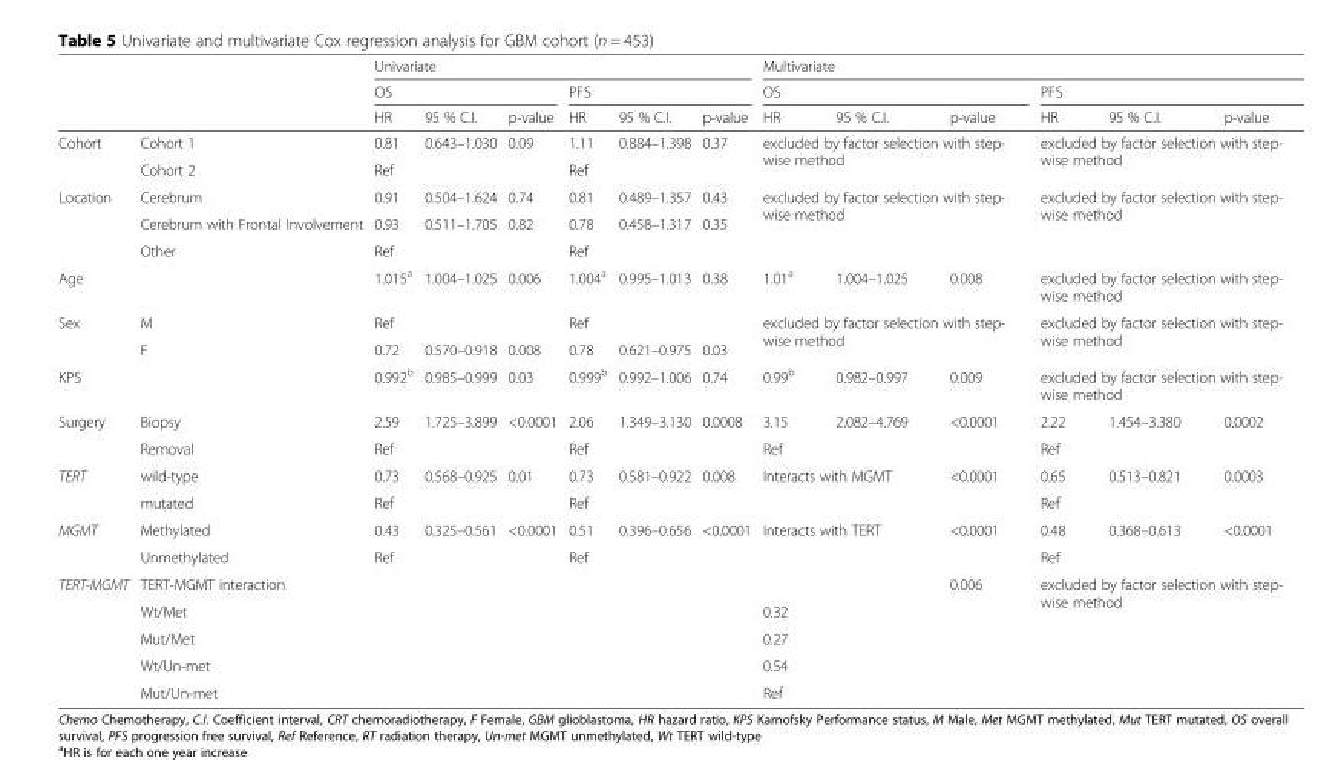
<table><thead><tr><td rowspan="3"></td><td rowspan="3"></td><td colspan="6">Univariate</td><td colspan="6">Multivariate</td></tr><tr><td colspan="3">OS</td><td colspan="3">PFS</td><td colspan="3">OS</td><td colspan="3">PFS</td></tr><tr><td>HR</td><td>95 % C.I.</td><td>p-value</td><td>HR</td><td>95 % C.I.</td><td>p-value</td><td>HR</td><td>95 % C.I.</td><td>p-value</td><td>HR</td><td>95 % C.I.</td><td>p-value</td></tr></thead><tbody><tr><td rowspan="2">Cohort</td><td>Cohort 1</td><td>0.81</td><td>0.643–1.030</td><td>0.09</td><td>1.11</td><td>0.884–1.398</td><td>0.37</td><td rowspan="2" colspan="3">excluded by factor selection with step- wise method</td><td rowspan="2" colspan="3">excluded by factor selection with step- wise method</td></tr><tr><td>Cohort 2</td><td colspan="3">Ref</td><td colspan="3">Ref</td></tr><tr><td rowspan="3">Location</td><td>Cerebrum</td><td>0.91</td><td>0.504–1.624</td><td>0.74</td><td>0.81</td><td>0.489–1.357</td><td>0.43</td><td rowspan="3" colspan="3">excluded by factor selection with step- wise method</td><td rowspan="3" colspan="3">excluded by factor selection with step- wise method</td></tr><tr><td>Cerebrum with Frontal Involvement</td><td>0.93</td><td>0.511–1.705</td><td>0.82</td><td>0.78</td><td>0.458–1.317</td><td>0.35</td></tr><tr><td>Other</td><td colspan="3">Ref</td><td colspan="3">Ref</td></tr><tr><td>Age</td><td></td><td>1.015<sup>a</sup></td><td>1.004–1.025</td><td>0.006</td><td>1.004<sup>a</sup></td><td>0.995–1.013</td><td>0.38</td><td>1.01<sup>a</sup></td><td>1.004–1.025</td><td>0.008</td><td colspan="3">excluded by factor selection with step- wise method</td></tr><tr><td rowspan="2">Sex</td><td>M</td><td colspan="3">Ref</td><td colspan="3">Ref</td><td rowspan="2" colspan="3">excluded by factor selection with step- wise method</td><td rowspan="2" colspan="3">excluded by factor selection with step- wise method</td></tr><tr><td>F</td><td>0.72</td><td>0.570–0.918</td><td>0.008</td><td>0.78</td><td>0.621–0.975</td><td>0.03</td></tr><tr><td>KPS</td><td></td><td>0.992<sup>b</sup></td><td>0.985–0.999</td><td>0.03</td><td>0.999<sup>b</sup></td><td>0.992–1.006</td><td>0.74</td><td>0.99<sup>b</sup></td><td>0.982–0.997</td><td>0.009</td><td colspan="3">excluded by factor selection with step- wise method</td></tr><tr><td rowspan="2">Surgery</td><td>Biopsy</td><td>2.59</td><td>1.725–3.899</td><td>&lt;0.0001</td><td>2.06</td><td>1.349–3.130</td><td>0.0008</td><td>3.15</td><td>2.082–4.769</td><td>&lt;0.0001</td><td>2.22</td><td>1.454–3.380</td><td>0.0002</td></tr><tr><td>Removal</td><td colspan="3">Ref</td><td colspan="3">Ref</td><td colspan="3">Ref</td><td colspan="3">Ref</td></tr><tr><td rowspan="2">TERT</td><td>wild-type</td><td>0.73</td><td>0.568–0.925</td><td>0.01</td><td>0.73</td><td>0.581–0.922</td><td>0.008</td><td colspan="2">Interacts with MGMT</td><td>&lt;0.0001</td><td>0.65</td><td>0.513–0.821</td><td>0.0003</td></tr><tr><td>mutated</td><td colspan="3">Ref</td><td colspan="3">Ref</td><td colspan="3"></td><td colspan="3">Ref</td></tr><tr><td rowspan="2">MGMT</td><td>Methylated</td><td>0.43</td><td>0.325–0.561</td><td>&lt;0.0001</td><td>0.51</td><td>0.396–0.656</td><td>&lt;0.0001</td><td colspan="2">Interacts with TERT</td><td>&lt;0.0001</td><td>0.48</td><td>0.368–0.613</td><td>&lt;0.0001</td></tr><tr><td>Unmethylated</td><td colspan="3">Ref</td><td colspan="3">Ref</td><td colspan="3"></td><td colspan="3">Ref</td></tr><tr><td rowspan="5">TERT-MGMT</td><td>TERT-MGMT interaction</td><td rowspan="5" colspan="6"></td><td colspan="2"></td><td>0.006</td><td rowspan="5" colspan="3">excluded by factor selection with step- wise method</td></tr><tr><td>Wt/Met</td><td>0.32</td><td></td><td></td></tr><tr><td>Mut/Met</td><td>0.27</td><td></td><td></td></tr><tr><td>Wt/Un-met</td><td>0.54</td><td></td><td></td></tr><tr><td>Mut/Un-met</td><td>Ref</td><td></td><td></td></tr></tbody></table>